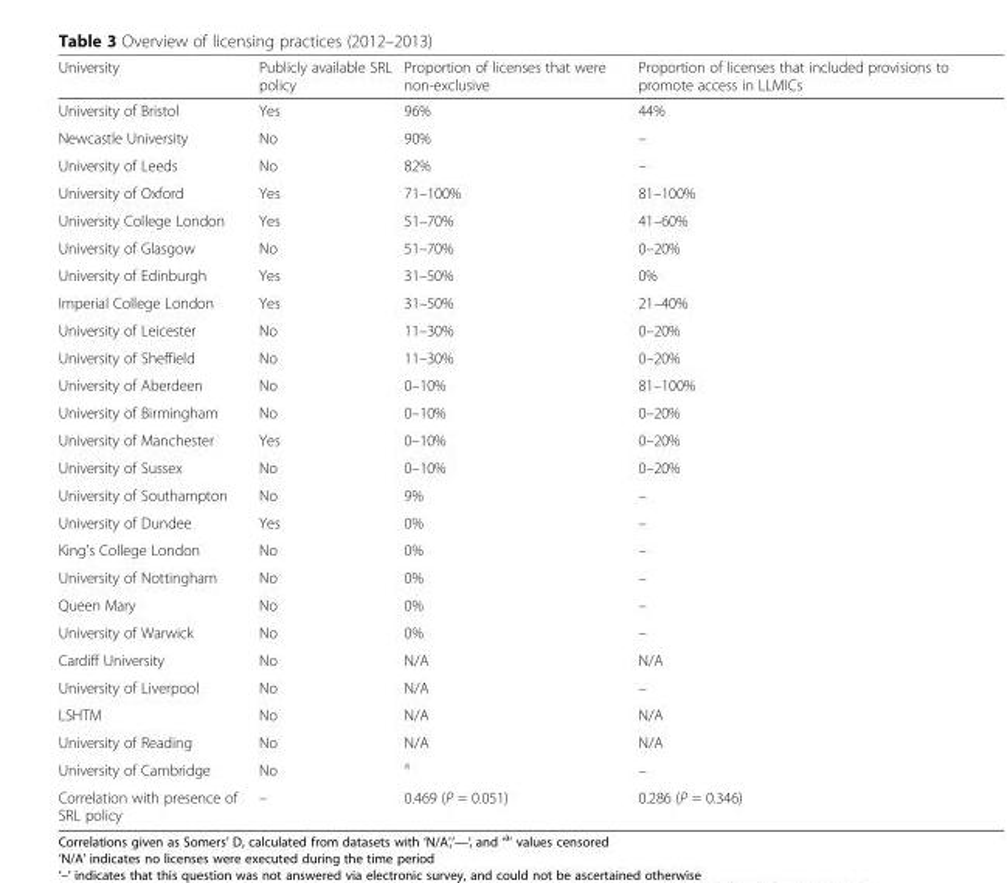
<table><thead><tr><td>University</td><td>Publicly available SRL policy</td><td>Proportion of licenses that were non-exclusive</td><td>Proportion of licenses that included provisions to promote access in LLMICs</td></tr></thead><tbody><tr><td>University of Bristol</td><td>Yes</td><td>96%</td><td>44%</td></tr><tr><td>Newcastle University</td><td>No</td><td>90%</td><td>–</td></tr><tr><td>University of Leeds</td><td>No</td><td>82%</td><td>–</td></tr><tr><td>University of Oxford</td><td>Yes</td><td>71–100%</td><td>81–100%</td></tr><tr><td>University College London</td><td>Yes</td><td>51–70%</td><td>41–60%</td></tr><tr><td>University of Glasgow</td><td>No</td><td>51–70%</td><td>0–20%</td></tr><tr><td>University of Edinburgh</td><td>Yes</td><td>31–50%</td><td>0%</td></tr><tr><td>Imperial College London</td><td>Yes</td><td>31–50%</td><td>21–40%</td></tr><tr><td>University of Leicester</td><td>No</td><td>11–30%</td><td>0–20%</td></tr><tr><td>University of Sheffield</td><td>No</td><td>11–30%</td><td>0–20%</td></tr><tr><td>University of Aberdeen</td><td>No</td><td>0–10%</td><td>81–100%</td></tr><tr><td>University of Birmingham</td><td>No</td><td>0–10%</td><td>0–20%</td></tr><tr><td>University of Manchester</td><td>Yes</td><td>0–10%</td><td>0–20%</td></tr><tr><td>University of Sussex</td><td>No</td><td>0–10%</td><td>0–20%</td></tr><tr><td>University of Southampton</td><td>No</td><td>9%</td><td>–</td></tr><tr><td>University of Dundee</td><td>Yes</td><td>0%</td><td>–</td></tr><tr><td>King&#x27;s College London</td><td>No</td><td>0%</td><td>–</td></tr><tr><td>University of Nottingham</td><td>No</td><td>0%</td><td>–</td></tr><tr><td>Queen Mary</td><td>No</td><td>0%</td><td>–</td></tr><tr><td>University of Warwick</td><td>No</td><td>0%</td><td>–</td></tr><tr><td>Cardiff University</td><td>No</td><td>N/A</td><td>N/A</td></tr><tr><td>University of Liverpool</td><td>No</td><td>N/A</td><td>–</td></tr><tr><td>LSHTM</td><td>No</td><td>N/A</td><td>N/A</td></tr><tr><td>University of Reading</td><td>No</td><td>N/A</td><td>N/A</td></tr><tr><td>University of Cambridge</td><td>No</td><td><sup>a</sup></td><td>–</td></tr><tr><td>Correlation with presence of SRL policy</td><td>–</td><td>0.469 (P = 0.051)</td><td>0.286 (P = 0.346)</td></tr></tbody></table>